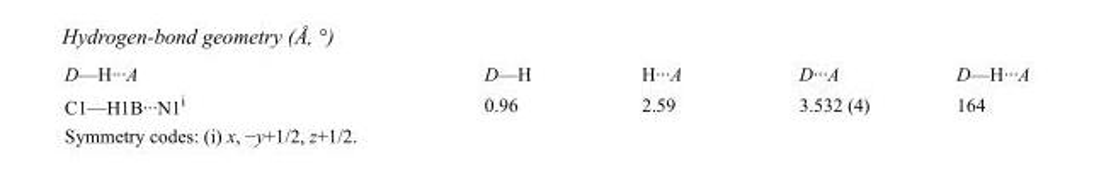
<table><tbody><tr><td>D—H···A</td><td>D—H</td><td>H···A</td><td>D···A</td><td>D—H···A</td></tr><tr><td>C1—H1B···N1<sup>i</sup></td><td>0.96</td><td>2.59</td><td>3.532 (4)</td><td>164</td></tr></tbody></table>